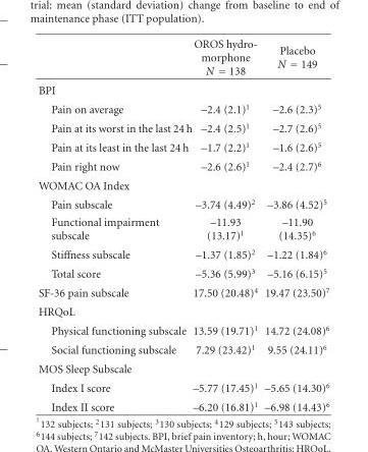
<table><thead><tr><td></td><td>OROS hydro- morphone N = 138</td><td>Placebo N = 149</td></tr></thead><tbody><tr><td colspan="3">BPI</td></tr><tr><td>Pain on average</td><td>–2.4 (2.1)<sup>1</sup></td><td>–2.6 (2.3)<sup>5</sup></td></tr><tr><td>Pain at its worst in the last 24 h</td><td>–2.4 (2.5)<sup>1</sup></td><td>–2.7 (2.6)<sup>5</sup></td></tr><tr><td>Pain at its least in the last 24 h</td><td>–1.7 (2.2)<sup>1</sup></td><td>–1.6 (2.6)<sup>5</sup></td></tr><tr><td>Pain right now</td><td>–2.6 (2.6)<sup>1</sup></td><td>–2.4 (2.7)<sup>6</sup></td></tr><tr><td colspan="3">WOMAC OA Index</td></tr><tr><td>Pain subscale</td><td>–3.74 (4.49)<sup>2</sup></td><td>–3.86 (4.52)<sup>5</sup></td></tr><tr><td>Functional impairment subscale</td><td>–11.93 (13.17)<sup>1</sup></td><td>–11.90 (14.35)<sup>6</sup></td></tr><tr><td>Stiffness subscale</td><td>–1.37 (1.85)<sup>2</sup></td><td>–1.22 (1.84)<sup>6</sup></td></tr><tr><td>Total score</td><td>–5.36 (5.99)<sup>3</sup></td><td>–5.16 (6.15)<sup>5</sup></td></tr><tr><td>SF-36 pain subscale</td><td>17.50 (20.48)<sup>4</sup></td><td>19.47 (23.50)<sup>7</sup></td></tr><tr><td colspan="3">HRQoL</td></tr><tr><td>Physical functioning subscale</td><td>13.59 (19.71)<sup>1</sup></td><td>14.72 (24.08)<sup>6</sup></td></tr><tr><td>Social functioning subscale</td><td>7.29 (23.42)<sup>1</sup></td><td>9.55 (24.11)<sup>6</sup></td></tr><tr><td colspan="3">MOS Sleep Subscale</td></tr><tr><td>Index I score</td><td>–5.77 (17.45)<sup>1</sup></td><td>–5.65 (14.30)<sup>6</sup></td></tr><tr><td>Index II score</td><td>–6.20 (16.81)<sup>1</sup></td><td>–6.98 (14.43)<sup>6</sup></td></tr></tbody></table>